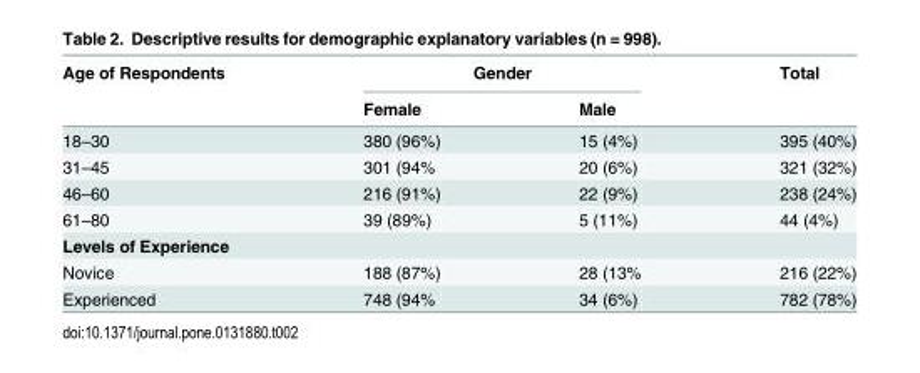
<table><thead><tr><td rowspan="2">Age of Respondents</td><td colspan="2">Gender</td><td rowspan="2">Total</td></tr><tr><td>Female</td><td>Male</td></tr></thead><tbody><tr><td>18–30</td><td>380 (96%)</td><td>15 (4%)</td><td>395 (40%)</td></tr><tr><td>31–45</td><td>301 (94%</td><td>20 (6%)</td><td>321 (32%)</td></tr><tr><td>46–60</td><td>216 (91%)</td><td>22 (9%)</td><td>238 (24%)</td></tr><tr><td>61–80</td><td>39 (89%)</td><td>5 (11%)</td><td>44 (4%)</td></tr><tr><td colspan="4">Levels of Experience</td></tr><tr><td>Novice</td><td>188 (87%)</td><td>28 (13%</td><td>216 (22%)</td></tr><tr><td>Experienced</td><td>748 (94%</td><td>34 (6%)</td><td>782 (78%)</td></tr></tbody></table>